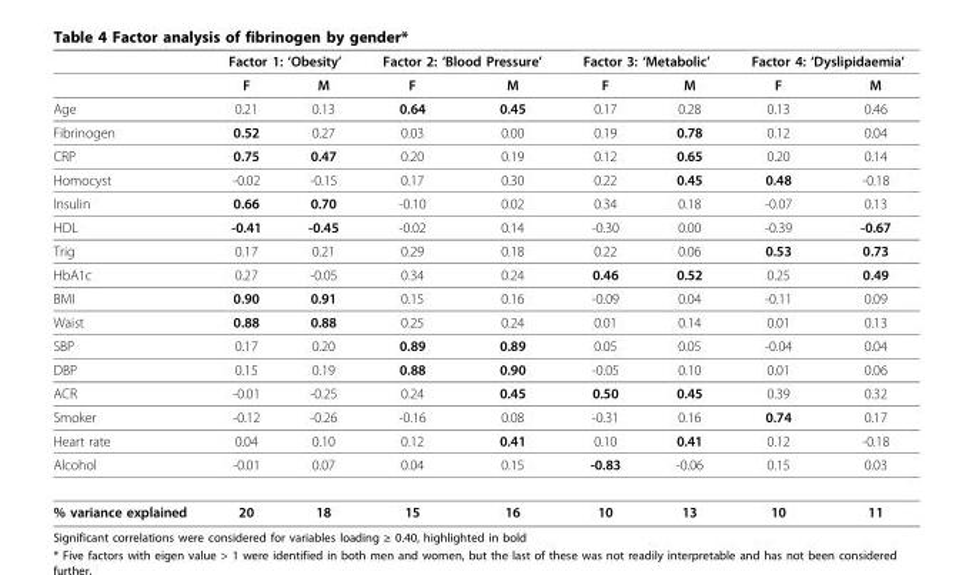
<table><thead><tr><td rowspan="2"></td><td colspan="2">Factor 1: ‘Obesity’</td><td colspan="2">Factor 2: ‘Blood Pressure’</td><td colspan="2">Factor 3: ‘Metabolic’</td><td colspan="2">Factor 4: ‘Dyslipidaemia’</td></tr><tr><td>F</td><td>M</td><td>F</td><td>M</td><td>F</td><td>M</td><td>F</td><td>M</td></tr></thead><tbody><tr><td>Age</td><td>0.21</td><td>0.13</td><td>0.64</td><td>0.45</td><td>0.17</td><td>0.28</td><td>0.13</td><td>0.46</td></tr><tr><td>Fibrinogen</td><td>0.52</td><td>0.27</td><td>0.03</td><td>0.00</td><td>0.19</td><td>0.78</td><td>0.12</td><td>0.04</td></tr><tr><td>CRP</td><td>0.75</td><td>0.47</td><td>0.20</td><td>0.19</td><td>0.12</td><td>0.65</td><td>0.20</td><td>0.14</td></tr><tr><td>Homocyst</td><td>-0.02</td><td>-0.15</td><td>0.17</td><td>0.30</td><td>0.22</td><td>0.45</td><td>0.48</td><td>-0.18</td></tr><tr><td>Insulin</td><td>0.66</td><td>0.70</td><td>-0.10</td><td>0.02</td><td>0.34</td><td>0.18</td><td>-0.07</td><td>0.13</td></tr><tr><td>HDL</td><td>-0.41</td><td>-0.45</td><td>-0.02</td><td>0.14</td><td>-0.30</td><td>0.00</td><td>-0.39</td><td>-0.67</td></tr><tr><td>Trig</td><td>0.17</td><td>0.21</td><td>0.29</td><td>0.18</td><td>0.22</td><td>0.06</td><td>0.53</td><td>0.73</td></tr><tr><td>HbA1c</td><td>0.27</td><td>-0.05</td><td>0.34</td><td>0.24</td><td>0.46</td><td>0.52</td><td>0.25</td><td>0.49</td></tr><tr><td>BMI</td><td>0.90</td><td>0.91</td><td>0.15</td><td>0.16</td><td>-0.09</td><td>0.04</td><td>-0.11</td><td>0.09</td></tr><tr><td>Waist</td><td>0.88</td><td>0.88</td><td>0.25</td><td>0.24</td><td>0.01</td><td>0.14</td><td>0.01</td><td>0.13</td></tr><tr><td>SBP</td><td>0.17</td><td>0.20</td><td>0.89</td><td>0.89</td><td>0.05</td><td>0.05</td><td>-0.04</td><td>0.04</td></tr><tr><td>DBP</td><td>0.15</td><td>0.19</td><td>0.88</td><td>0.90</td><td>-0.05</td><td>0.10</td><td>0.01</td><td>0.06</td></tr><tr><td>ACR</td><td>-0.01</td><td>-0.25</td><td>0.24</td><td>0.45</td><td>0.50</td><td>0.45</td><td>0.39</td><td>0.32</td></tr><tr><td>Smoker</td><td>-0.12</td><td>-0.26</td><td>-0.16</td><td>0.08</td><td>-0.31</td><td>0.16</td><td>0.74</td><td>0.17</td></tr><tr><td>Heart rate</td><td>0.04</td><td>0.10</td><td>0.12</td><td>0.41</td><td>0.10</td><td>0.41</td><td>0.12</td><td>-0.18</td></tr><tr><td>Alcohol</td><td>-0.01</td><td>0.07</td><td>0.04</td><td>0.15</td><td>-0.83</td><td>-0.06</td><td>0.15</td><td>0.03</td></tr><tr><td>% variance explained</td><td>20</td><td>18</td><td>15</td><td>16</td><td>10</td><td>13</td><td>10</td><td>11</td></tr></tbody></table>